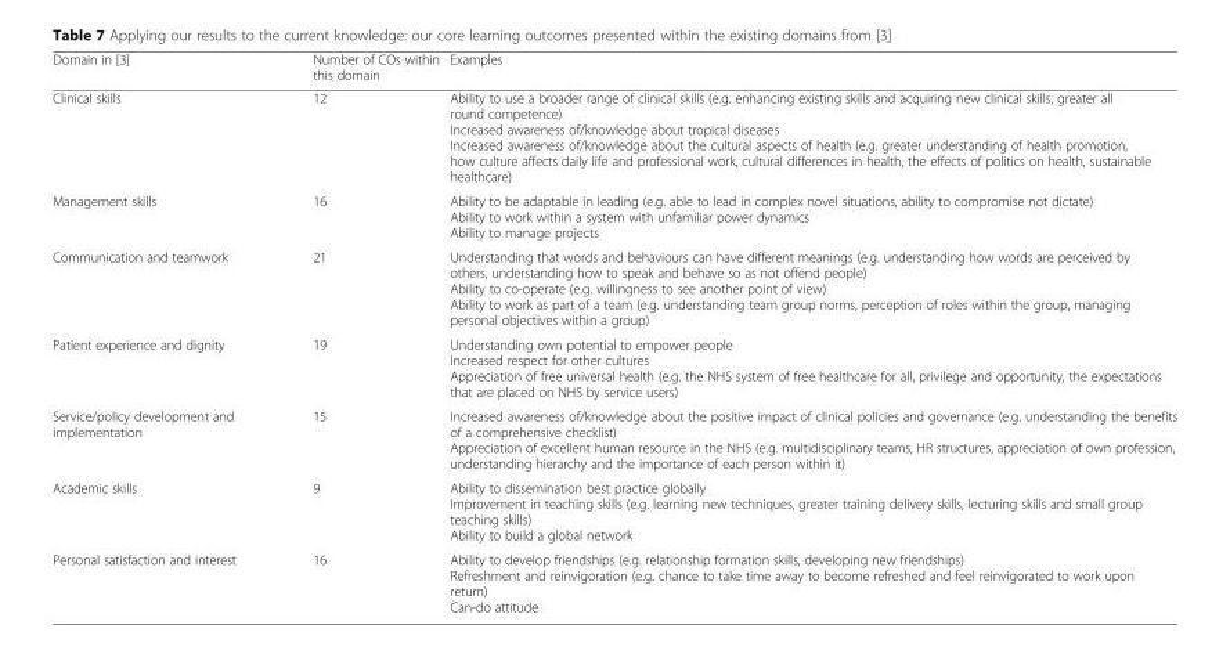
<table><thead><tr><td>Domain in [3]</td><td>Number of COs within this domain</td><td>Examples</td></tr></thead><tbody><tr><td>Clinical skills</td><td>12</td><td>Ability to use a broader range of clinical skills (e.g. enhancing existing skills and acquiring new clinical skills, greater all round competence) Increased awareness of/knowledge about tropical diseases Increased awareness of/knowledge about the cultural aspects of health (e.g. greater understanding of health promotion, how culture affects daily life and professional work, cultural differences in health, the effects of politics on health, sustainable healthcare)</td></tr><tr><td>Management skills</td><td>16</td><td>Ability to be adaptable in leading (e.g. able to lead in complex novel situations, ability to compromise not dictate) Ability to work within a system with unfamiliar power dynamics Ability to manage projects</td></tr><tr><td>Communication and teamwork</td><td>21</td><td>Understanding that words and behaviours can have different meanings (e.g. understanding how words are perceived by others, understanding how to speak and behave so as not offend people) Ability to co-operate (e.g. willingness to see another point of view) Ability to work as part of a team (e.g. understanding team group norms, perception of roles within the group, managing personal objectives within a group)</td></tr><tr><td>Patient experience and dignity</td><td>19</td><td>Understanding own potential to empower people Increased respect for other cultures Appreciation of free universal health (e.g. the NHS system of free healthcare for all, privilege and opportunity, the expectations that are placed on NHS by service users)</td></tr><tr><td>Service/policy development and implementation</td><td>15</td><td>Increased awareness of/knowledge about the positive impact of clinical policies and governance (e.g. understanding the benefits of a comprehensive checklist) Appreciation of excellent human resource in the NHS (e.g. multidisciplinary teams, HR structures, appreciation of own profession, understanding hierarchy and the importance of each person within it)</td></tr><tr><td>Academic skills</td><td>9</td><td>Ability to dissemination best practice globally Improvement in teaching skills (e.g. learning new techniques, greater training delivery skills, lecturing skills and small group teaching skills) Ability to build a global network</td></tr><tr><td>Personal satisfaction and interest</td><td>16</td><td>Ability to develop friendships (e.g. relationship formation skills, developing new friendships) Refreshment and reinvigoration (e.g. chance to take time away to become refreshed and feel reinvigorated to work upon return) Can-do attitude</td></tr></tbody></table>